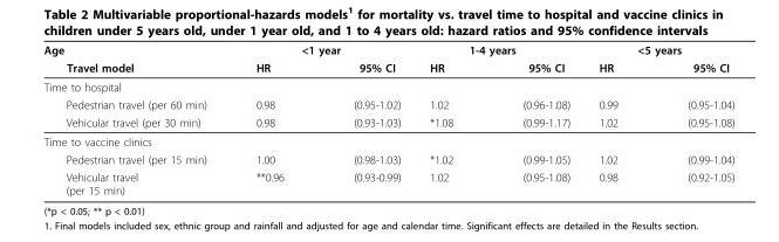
<table><thead><tr><td rowspan="2">Age Travel model</td><td colspan="2">&lt;1 year</td><td colspan="2">1-4 years</td><td colspan="2">&lt;5 years</td></tr><tr><td>HR</td><td>95% CI</td><td>HR</td><td>95% CI</td><td>HR</td><td>95% CI</td></tr></thead><tbody><tr><td colspan="7">Time to hospital</td></tr><tr><td>Pedestrian travel (per 60 min)</td><td>0.98</td><td>(0.95-1.02)</td><td>1.02</td><td>(0.96-1.08)</td><td>0.99</td><td>(0.95-1.04)</td></tr><tr><td>Vehicular travel (per 30 min)</td><td>0.98</td><td>(0.93-1.03)</td><td>*1.08</td><td>(0.99-1.17)</td><td>1.02</td><td>(0.95-1.08)</td></tr><tr><td colspan="7">Time to vaccine clinics</td></tr><tr><td>Pedestrian travel (per 15 min)</td><td>1.00</td><td>(0.98-1.03)</td><td>*1.02</td><td>(0.99-1.05)</td><td>1.02</td><td>(0.99-1.04)</td></tr><tr><td>Vehicular travel (per 15 min)</td><td>**0.96</td><td>(0.93-0.99)</td><td>1.02</td><td>(0.95-1.08)</td><td>0.98</td><td>(0.92-1.05)</td></tr></tbody></table>